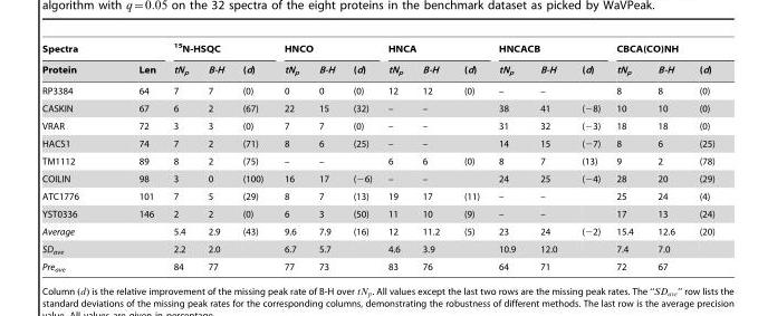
<table><thead><tr><td colspan="2">Spectra</td><td colspan="3"><sup>15</sup>N-HSQC</td><td colspan="3">HNCO</td><td colspan="3">HNCA</td><td colspan="3">HNCACB</td><td colspan="3">CBCA(CO)NH</td></tr><tr><td>Protein</td><td>Len</td><td>tN<sub>p</sub></td><td>B-H</td><td>(d)</td><td>tN<sub>p</sub></td><td>B-H</td><td>(d)</td><td>tN<sub>p</sub></td><td>B-H</td><td>(d)</td><td>tN<sub>p</sub></td><td>B-H</td><td>(d)</td><td>tN<sub>p</sub></td><td>B-H</td><td>(d)</td></tr></thead><tbody><tr><td>RP3384</td><td>64</td><td>7</td><td>7</td><td>(0)</td><td>0</td><td>0</td><td>(0)</td><td>12</td><td>12</td><td>(0)</td><td>–</td><td>–</td><td></td><td>8</td><td>8</td><td>(0)</td></tr><tr><td>CASKIN</td><td>67</td><td>6</td><td>2</td><td>(67)</td><td>22</td><td>15</td><td>(32)</td><td>–</td><td>–</td><td></td><td>38</td><td>41</td><td>(−8)</td><td>10</td><td>10</td><td>(0)</td></tr><tr><td>VRAR</td><td>72</td><td>3</td><td>3</td><td>(0)</td><td>7</td><td>7</td><td>(0)</td><td>–</td><td>–</td><td></td><td>31</td><td>32</td><td>(−3)</td><td>18</td><td>18</td><td>(0)</td></tr><tr><td>HACS1</td><td>74</td><td>7</td><td>2</td><td>(71)</td><td>8</td><td>6</td><td>(25)</td><td>–</td><td>–</td><td></td><td>14</td><td>15</td><td>(−7)</td><td>8</td><td>6</td><td>(25)</td></tr><tr><td>TM1112</td><td>89</td><td>8</td><td>2</td><td>(75)</td><td>–</td><td>–</td><td></td><td>6</td><td>6</td><td>(0)</td><td>8</td><td>7</td><td>(13)</td><td>9</td><td>2</td><td>(78)</td></tr><tr><td>COILIN</td><td>98</td><td>3</td><td>0</td><td>(100)</td><td>16</td><td>17</td><td>(−6)</td><td>–</td><td>–</td><td></td><td>24</td><td>25</td><td>(−4)</td><td>28</td><td>20</td><td>(29)</td></tr><tr><td>ATC1776</td><td>101</td><td>7</td><td>5</td><td>(29)</td><td>8</td><td>7</td><td>(13)</td><td>19</td><td>17</td><td>(11)</td><td>–</td><td>–</td><td></td><td>25</td><td>24</td><td>(4)</td></tr><tr><td>YST0336</td><td>146</td><td>2</td><td>2</td><td>(0)</td><td>6</td><td>3</td><td>(50)</td><td>11</td><td>10</td><td>(9)</td><td>–</td><td>–</td><td></td><td>17</td><td>13</td><td>(24)</td></tr><tr><td colspan="2">Average</td><td>5.4</td><td>2.9</td><td>(43)</td><td>9.6</td><td>7.9</td><td>(16)</td><td>12</td><td>11.2</td><td>(5)</td><td>23</td><td>24</td><td>(−2)</td><td>15.4</td><td>12.6</td><td>(20)</td></tr><tr><td colspan="2">SD<sub>ave</sub></td><td>2.2</td><td>2.0</td><td></td><td>6.7</td><td>5.7</td><td></td><td>4.6</td><td>3.9</td><td></td><td>10.9</td><td>12.0</td><td></td><td>7.4</td><td>7.0</td><td></td></tr><tr><td colspan="2">Pre<sub>ave</sub></td><td>84</td><td>77</td><td></td><td>77</td><td>73</td><td></td><td>83</td><td>76</td><td></td><td>64</td><td>71</td><td></td><td>72</td><td>67</td><td></td></tr></tbody></table>